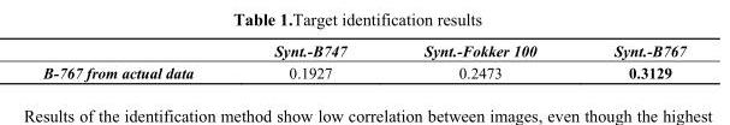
<table><thead><tr><td></td><td>Synt.-B747</td><td>Synt.-Fokker 100</td><td>Synt.-B767</td></tr></thead><tbody><tr><td>B-767 from actual data</td><td>0.1927</td><td>0.2473</td><td>0.3129</td></tr></tbody></table>